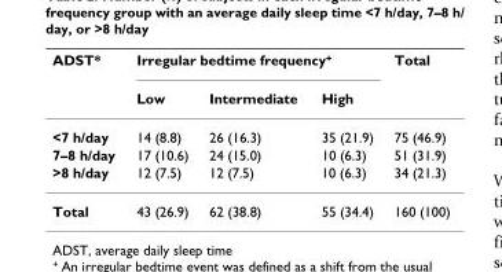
<table><thead><tr><td rowspan="2">ADST*</td><td colspan="3">Irregular bedtime frequency<sup>+</sup></td><td rowspan="2">Total</td></tr><tr><td>Low</td><td>Intermediate</td><td>High</td></tr></thead><tbody><tr><td>&lt;7 h/day</td><td>14 (8.8)</td><td>26 (16.3)</td><td>35 (21.9)</td><td>75 (46.9)</td></tr><tr><td>7–8 h/day</td><td>17 (10.6)</td><td>24 (15.0)</td><td>10 (6.3)</td><td>51 (31.9)</td></tr><tr><td>&gt;8 h/day</td><td>12 (7.5)</td><td>12 (7.5)</td><td>10 (6.3)</td><td>34 (21.3)</td></tr><tr><td>Total</td><td>43 (26.9)</td><td>62 (38.8)</td><td>55 (34.4)</td><td>160 (100)</td></tr></tbody></table>